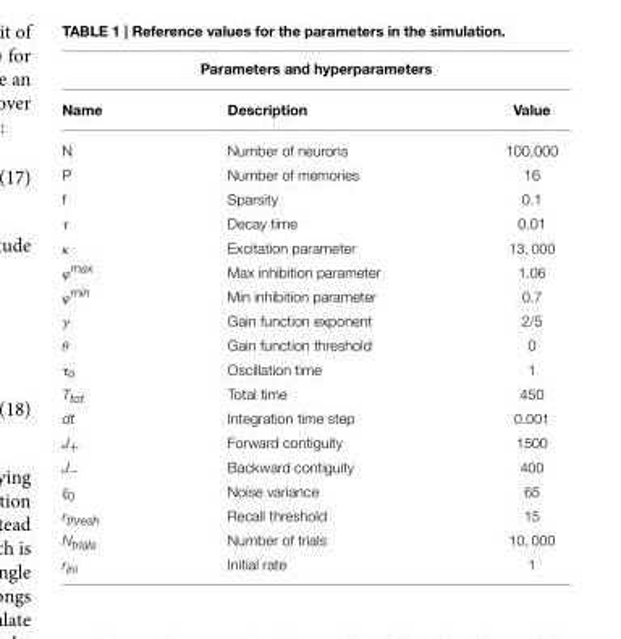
<table><thead><tr><td colspan="3">Parameters and hyperparameters</td></tr><tr><td>Name</td><td>Description</td><td>Value</td></tr></thead><tbody><tr><td>N</td><td>Number of neurons</td><td>100,000</td></tr><tr><td>P</td><td>Number of memories</td><td>16</td></tr><tr><td>f</td><td>Sparsity</td><td>0.1</td></tr><tr><td>τ</td><td>Decay time</td><td>0.01</td></tr><tr><td>κ</td><td>Excitation parameter</td><td>13, 000</td></tr><tr><td>ϕ<sup>max</sup></td><td>Max inhibition parameter</td><td>1.06</td></tr><tr><td>ϕ<sup>min</sup></td><td>Min inhibition parameter</td><td>0.7</td></tr><tr><td>γ</td><td>Gain function exponent</td><td>2/5</td></tr><tr><td>θ</td><td>Gain function threshold</td><td>0</td></tr><tr><td>τ<sub>o</sub></td><td>Oscillation time</td><td>1</td></tr><tr><td>T<sub>tot</sub></td><td>Total time</td><td>450</td></tr><tr><td>dt</td><td>Integration time step</td><td>0.001</td></tr><tr><td>J<sub>+</sub></td><td>Forward contiguity</td><td>1500</td></tr><tr><td>J<sub>−</sub></td><td>Backward contiguity</td><td>400</td></tr><tr><td>ξ<sub>0</sub></td><td>Noise variance</td><td>65</td></tr><tr><td>r<sub>thresh</sub></td><td>Recall threshold</td><td>15</td></tr><tr><td>N<sub>trials</sub></td><td>Number of trials</td><td>10, 000</td></tr><tr><td>r<sub>ini</sub></td><td>Initial rate</td><td>1</td></tr></tbody></table>